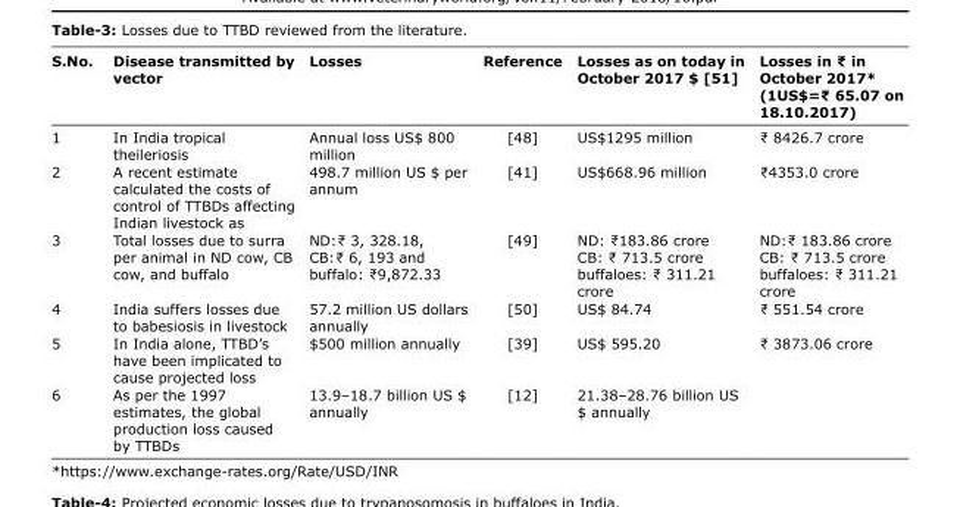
<table><thead><tr><td>S.No.</td><td>Disease transmitted by vector</td><td>Losses</td><td>Reference</td><td>Losses as on today in October 2017 $ [51]</td><td>Losses in ₹ in October 2017* (1US$=₹ 65.07 on 18.10.2017)</td></tr></thead><tbody><tr><td>1</td><td>In India tropical theileriosis</td><td>Annual loss US$ 800 million</td><td>[48]</td><td>US$1295 million</td><td>₹ 8426.7 crore</td></tr><tr><td>2</td><td>A recent estimate calculated the costs of control of TTBDs affecting Indian livestock as</td><td>498.7 million US $ per annum</td><td>[41]</td><td>US$668.96 million</td><td>₹4353.0 crore</td></tr><tr><td>3</td><td>Total losses due to surra per animal in ND cow, CB cow, and buffalo</td><td>ND:₹ 3, 328.18, CB:₹ 6, 193 and buffalo: ₹9,872.33</td><td>[49]</td><td>ND: ₹183.86 crore CB: ₹ 713.5 crore buffaloes: ₹ 311.21 crore</td><td>ND:₹ 183.86 crore CB: ₹ 713.5 crore buffaloes: ₹ 311.21 crore</td></tr><tr><td>4</td><td>India suffers losses due to babesiosis in livestock</td><td>57.2 million US dollars annually</td><td>[50]</td><td>US$ 84.74</td><td>₹ 551.54 crore</td></tr><tr><td>5</td><td>In India alone, TTBD’s have been implicated to cause projected loss</td><td>$500 million annually</td><td>[39]</td><td>US$ 595.20</td><td>₹ 3873.06 crore</td></tr><tr><td>6</td><td>As per the 1997 estimates, the global production loss caused by TTBDs</td><td>13.9–18.7 billion US $ annually</td><td>[12]</td><td>21.38–28.76 billion US $ annually</td><td></td></tr></tbody></table>